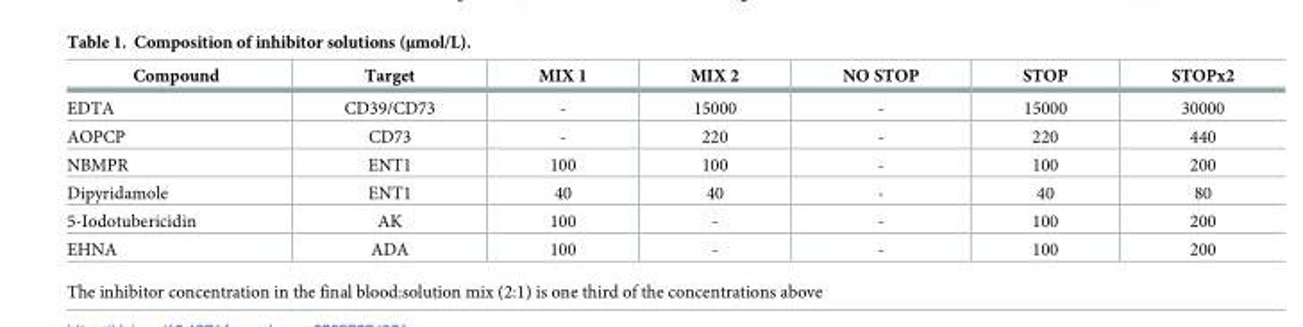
<table><thead><tr><td>Compound</td><td>Target</td><td>MIX 1</td><td>MIX 2</td><td>NO STOP</td><td>STOP</td><td>STOPx2</td></tr></thead><tbody><tr><td>EDTA</td><td>CD39/CD73</td><td>-</td><td>15000</td><td>-</td><td>15000</td><td>30000</td></tr><tr><td>AOPCP</td><td>CD73</td><td>-</td><td>220</td><td>-</td><td>220</td><td>440</td></tr><tr><td>NBMPR</td><td>ENT1</td><td>100</td><td>100</td><td>-</td><td>100</td><td>200</td></tr><tr><td>Dipyridamole</td><td>ENT1</td><td>40</td><td>40</td><td>-</td><td>40</td><td>80</td></tr><tr><td>5-Iodotubericidin</td><td>AK</td><td>100</td><td>-</td><td>-</td><td>100</td><td>200</td></tr><tr><td>EHNA</td><td>ADA</td><td>100</td><td>-</td><td>-</td><td>100</td><td>200</td></tr></tbody></table>